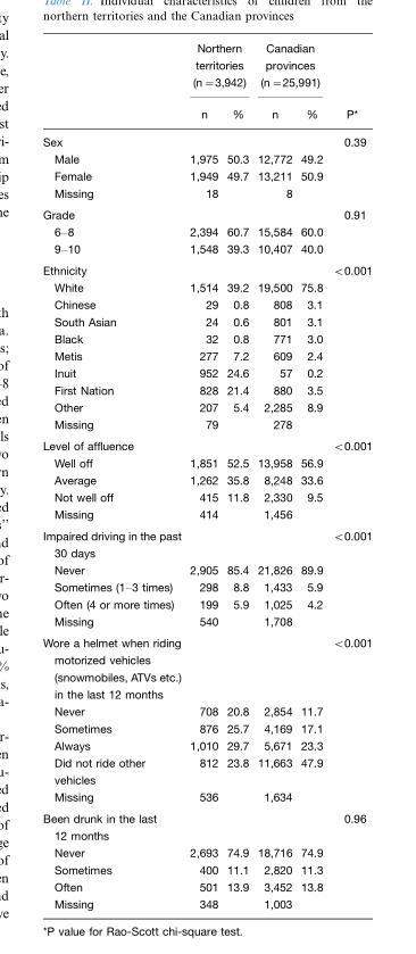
<table><thead><tr><td rowspan="2"></td><td colspan="2">Northern territories (n=3,942)</td><td colspan="2">Canadian provinces (n=25,991)</td><td rowspan="2">P*</td></tr><tr><td>n</td><td>%</td><td>n</td><td>%</td></tr></thead><tbody><tr><td>Sex</td><td></td><td></td><td></td><td></td><td>0.39</td></tr><tr><td>Male</td><td>1,975</td><td>50.3</td><td>12,772</td><td>49.2</td><td></td></tr><tr><td>Female</td><td>1,949</td><td>49.7</td><td>13,211</td><td>50.9</td><td></td></tr><tr><td>Missing</td><td>18</td><td></td><td>8</td><td></td><td></td></tr><tr><td>Grade</td><td></td><td></td><td></td><td></td><td>0.91</td></tr><tr><td>6–8</td><td>2,394</td><td>60.7</td><td>15,584</td><td>60.0</td><td></td></tr><tr><td>9–10</td><td>1,548</td><td>39.3</td><td>10,407</td><td>40.0</td><td></td></tr><tr><td>Ethnicity</td><td></td><td></td><td></td><td></td><td>&lt;0.001</td></tr><tr><td>White</td><td>1,514</td><td>39.2</td><td>19,500</td><td>75.8</td><td></td></tr><tr><td>Chinese</td><td>29</td><td>0.8</td><td>808</td><td>3.1</td><td></td></tr><tr><td>South Asian</td><td>24</td><td>0.6</td><td>801</td><td>3.1</td><td></td></tr><tr><td>Black</td><td>32</td><td>0.8</td><td>771</td><td>3.0</td><td></td></tr><tr><td>Metis</td><td>277</td><td>7.2</td><td>609</td><td>2.4</td><td></td></tr><tr><td>Inuit</td><td>952</td><td>24.6</td><td>57</td><td>0.2</td><td></td></tr><tr><td>First Nation</td><td>828</td><td>21.4</td><td>880</td><td>3.5</td><td></td></tr><tr><td>Other</td><td>207</td><td>5.4</td><td>2,285</td><td>8.9</td><td></td></tr><tr><td>Missing</td><td>79</td><td></td><td>278</td><td></td><td></td></tr><tr><td>Level of affluence</td><td></td><td></td><td></td><td></td><td>&lt;0.001</td></tr><tr><td>Well off</td><td>1,851</td><td>52.5</td><td>13,958</td><td>56.9</td><td></td></tr><tr><td>Average</td><td>1,262</td><td>35.8</td><td>8,248</td><td>33.6</td><td></td></tr><tr><td>Not well off</td><td>415</td><td>11.8</td><td>2,330</td><td>9.5</td><td></td></tr><tr><td>Missing</td><td>414</td><td></td><td>1,456</td><td></td><td></td></tr><tr><td>Impaired driving in the past 30 days</td><td></td><td></td><td></td><td></td><td>&lt;0.001</td></tr><tr><td>Never</td><td>2,905</td><td>85.4</td><td>21,826</td><td>89.9</td><td></td></tr><tr><td>Sometimes (1–3 times)</td><td>298</td><td>8.8</td><td>1,433</td><td>5.9</td><td></td></tr><tr><td>Often (4 or more times)</td><td>199</td><td>5.9</td><td>1,025</td><td>4.2</td><td></td></tr><tr><td>Missing</td><td>540</td><td></td><td>1,708</td><td></td><td></td></tr><tr><td>Wore a helmet when riding motorized vehicles (snowmobiles, ATVs etc.) in the last 12 months</td><td></td><td></td><td></td><td></td><td>&lt;0.001</td></tr><tr><td>Never</td><td>708</td><td>20.8</td><td>2,854</td><td>11.7</td><td></td></tr><tr><td>Sometimes</td><td>876</td><td>25.7</td><td>4,169</td><td>17.1</td><td></td></tr><tr><td>Always</td><td>1,010</td><td>29.7</td><td>5,671</td><td>23.3</td><td></td></tr><tr><td>Did not ride other vehicles</td><td>812</td><td>23.8</td><td>11,663</td><td>47.9</td><td></td></tr><tr><td>Missing</td><td>536</td><td></td><td>1,634</td><td></td><td></td></tr><tr><td>Been drunk in the last 12 months</td><td></td><td></td><td></td><td></td><td>0.96</td></tr><tr><td>Never</td><td>2,693</td><td>74.9</td><td>18,716</td><td>74.9</td><td></td></tr><tr><td>Sometimes</td><td>400</td><td>11.1</td><td>2,820</td><td>11.3</td><td></td></tr><tr><td>Often</td><td>501</td><td>13.9</td><td>3,452</td><td>13.8</td><td></td></tr><tr><td>Missing</td><td>348</td><td></td><td>1,003</td><td></td><td></td></tr></tbody></table>